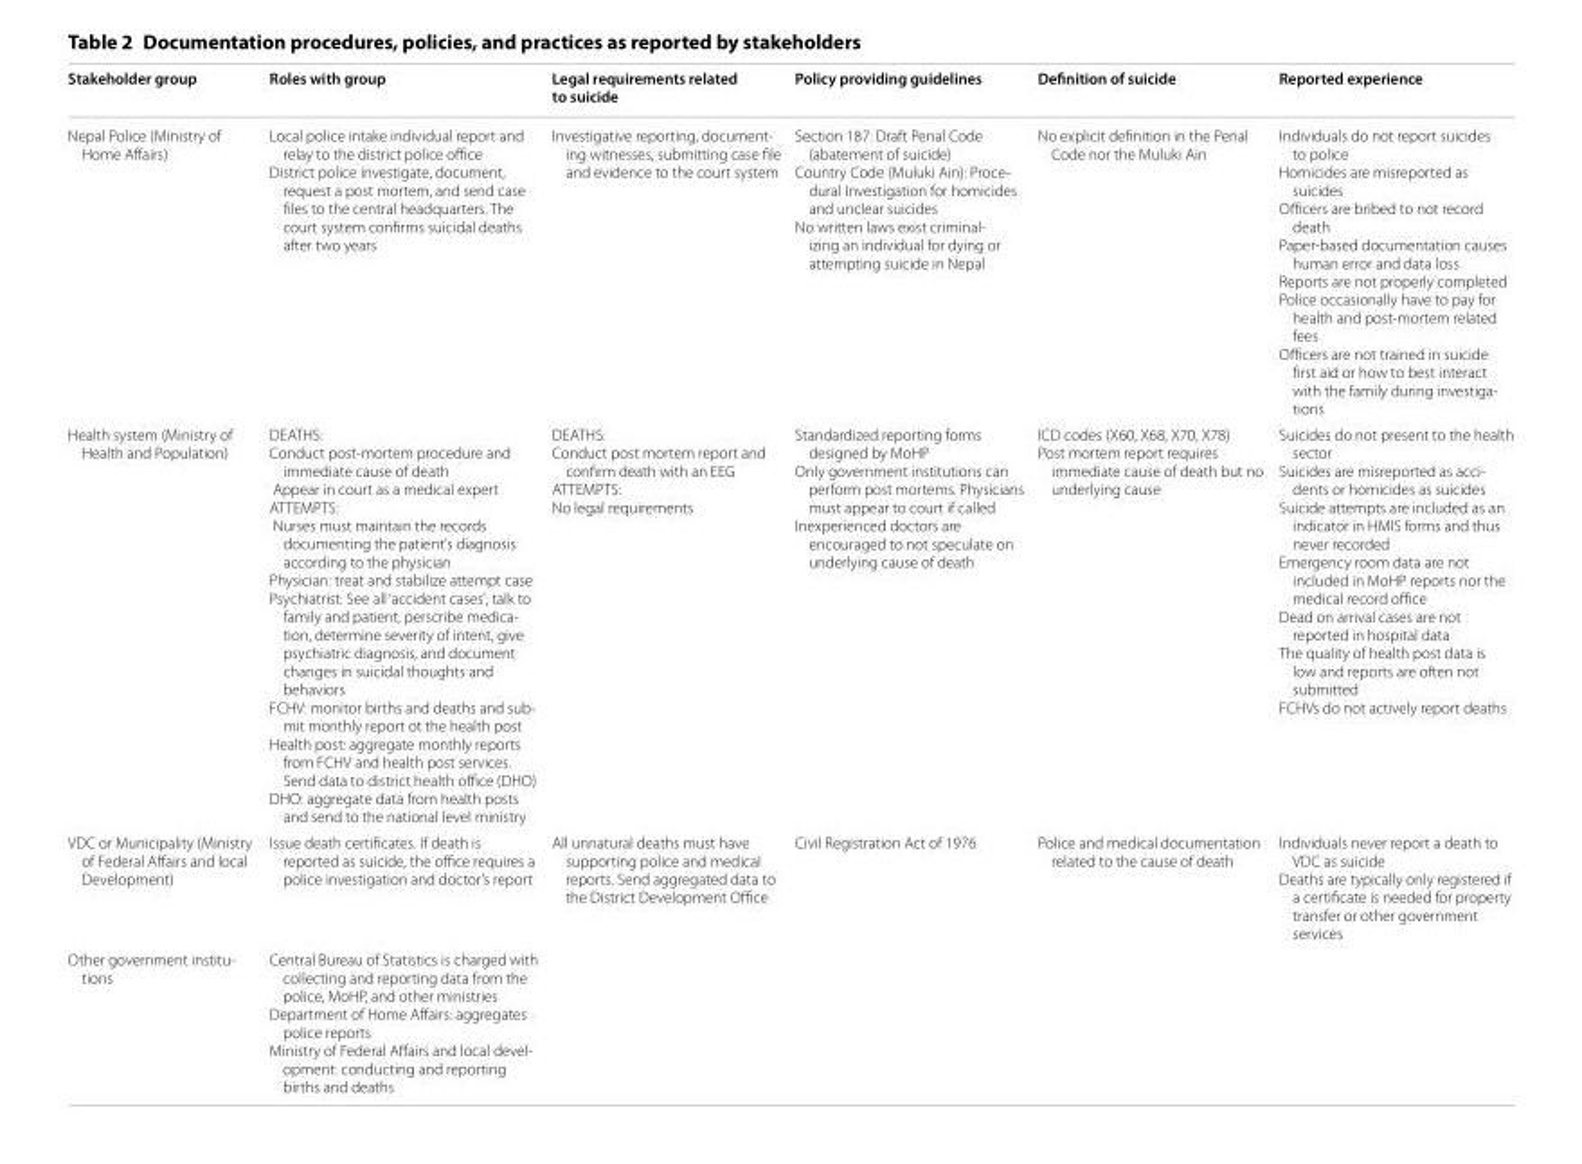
<table><thead><tr><td>Stakeholder group</td><td>Roles with group</td><td>Legal requirements related to suicide</td><td>Policy providing guidelines</td><td>Definition of suicide</td><td>Reported experience</td></tr></thead><tbody><tr><td>Nepal Police (Ministry of Home Affairs)</td><td>Local police intake individual report and relay to the district police office District police investigate, document, request a post mortem, and send case files to the central headquarters. The court system confirms suicidal deaths after two years</td><td>Investigative reporting, document- ing witnesses, submitting case file and evidence to the court system</td><td>Section 187: Draft Penal Code (abatement of suicide) Country Code (Muluki Ain): Proce- dural Investigation for homicides and unclear suicides No written laws exist criminal- izing an individual for dying or attempting suicide in Nepal</td><td>No explicit definition in the Penal Code nor the Muluki Ain</td><td>Individuals do not report suicides to police Homicides are misreported as suicides Officers are bribed to not record death Paper-based documentation causes human error and data loss Reports are not properly completed Police occasionally have to pay for health and post-mortem related fees Officers are not trained in suicide first aid or how to best interact with the family during investiga- tions</td></tr><tr><td>Health system (Ministry of Health and Population)</td><td>DEATHS: Conduct post-mortem procedure and immediate cause of death Appear in court as a medical expert ATTEMPTS: Nurses must maintain the records documenting the patient’s diagnosis according to the physician Physician: treat and stabilize attempt case Psychiatrist: See all ‘accident cases’; talk to family and patient, perscribe medica- tion, determine severity of intent, give psychiatric diagnosis, and document changes in suicidal thoughts and behaviors FCHV: monitor births and deaths and sub- mit monthly report ot the health post Health post: aggregate monthly reports from FCHV and health post services. Send data to district health office (DHO) DHO: aggregate data from health posts and send to the national level ministry</td><td>DEATHS: Conduct post mortem report and confirm death with an EEG ATTEMPTS: No legal requirements</td><td>Standardized reporting forms designed by MoHP Only government institutions can perform post mortems. Physicians must appear to court if called Inexperienced doctors are encouraged to not speculate on underlying cause of death</td><td>lCD codes (X60, X68, X70, X78) Post mortem report requires immediate cause of death but no underlying cause</td><td>Suicides do not present to the health sector Suicides are misreported as acci- dents or homicides as suicides Suicide attempts are included as an indicator in HMIS forms and thus never recorded Emergency room data are not included in MoHP reports nor the medical record office Dead on arrival cases are not reported in hospital data The quality of health post data is low and reports are often not submitted FCHVs do not actively report deaths</td></tr><tr><td>VDC or Municipality (Ministry of Federal Affairs and local Development)</td><td>Issue death certificates. If death is reported as suicide, the office requires a police investigation and doctor’s report</td><td>All unnatural deaths must have supporting police and medical reports. Send aggregated data to the District Development Office</td><td>Civil Registration Act of 1976</td><td>Police and medical documentation related to the cause of death</td><td>Individuals never report a death to VDC as suicide Deaths are typically only registered if a certificate is needed for property transfer or other government services</td></tr><tr><td>Other government institu- tions</td><td>Central Bureau of Statistics is charged with collecting and reporting data from the police, MoHP, and other ministries Department of Home Affairs: aggregates police reports Ministry of Federal Affairs and local devel- opment: conducting and reporting births and deaths</td><td></td><td></td><td></td><td></td></tr></tbody></table>